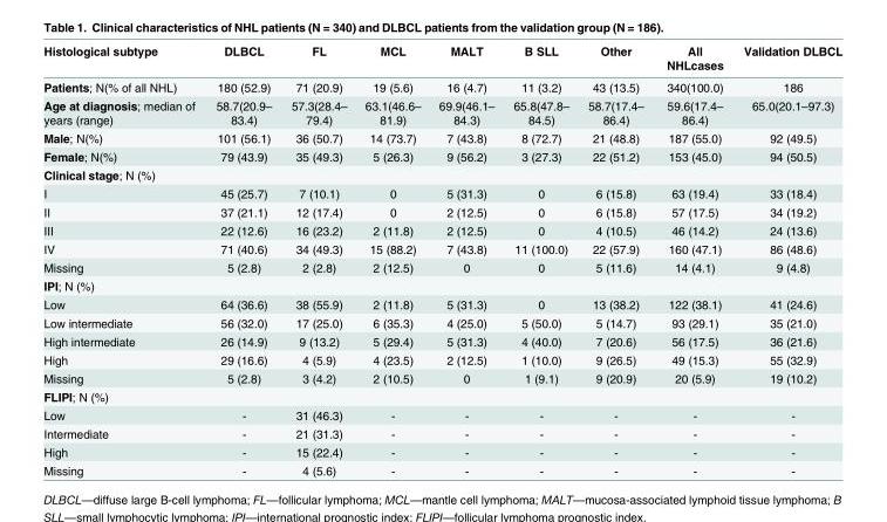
<table><thead><tr><td>Histological subtype</td><td>DLBCL</td><td>FL</td><td>MCL</td><td>MALT</td><td>B SLL</td><td>Other</td><td>All NHLcases</td><td>Validation DLBCL</td></tr></thead><tbody><tr><td>Patients; N(% of all NHL)</td><td>180 (52.9)</td><td>71 (20.9)</td><td>19 (5.6)</td><td>16 (4.7)</td><td>11 (3.2)</td><td>43 (13.5)</td><td>340(100.0)</td><td>186</td></tr><tr><td>Age at diagnosis; median of years (range)</td><td>58.7(20.9– 83.4)</td><td>57.3(28.4– 79.4)</td><td>63.1(46.6– 81.9)</td><td>69.9(46.1– 84.3)</td><td>65.8(47.8– 84.5)</td><td>58.7(17.4– 86.4)</td><td>59.6(17.4– 86.4)</td><td>65.0(20.1–97.3)</td></tr><tr><td>Male; N(%)</td><td>101 (56.1)</td><td>36 (50.7)</td><td>14 (73.7)</td><td>7 (43.8)</td><td>8 (72.7)</td><td>21 (48.8)</td><td>187 (55.0)</td><td>92 (49.5)</td></tr><tr><td>Female; N(%)</td><td>79 (43.9)</td><td>35 (49.3)</td><td>5 (26.3)</td><td>9 (56.2)</td><td>3 (27.3)</td><td>22 (51.2)</td><td>153 (45.0)</td><td>94 (50.5)</td></tr><tr><td colspan="9">Clinical stage; N (%)</td></tr><tr><td>I</td><td>45 (25.7)</td><td>7 (10.1)</td><td>0</td><td>5 (31.3)</td><td>0</td><td>6 (15.8)</td><td>63 (19.4)</td><td>33 (18.4)</td></tr><tr><td>II</td><td>37 (21.1)</td><td>12 (17.4)</td><td>0</td><td>2 (12.5)</td><td>0</td><td>6 (15.8)</td><td>57 (17.5)</td><td>34 (19.2)</td></tr><tr><td>III</td><td>22 (12.6)</td><td>16 (23.2)</td><td>2 (11.8)</td><td>2 (12.5)</td><td>0</td><td>4 (10.5)</td><td>46 (14.2)</td><td>24 (13.6)</td></tr><tr><td>IV</td><td>71 (40.6)</td><td>34 (49.3)</td><td>15 (88.2)</td><td>7 (43.8)</td><td>11 (100.0)</td><td>22 (57.9)</td><td>160 (47.1)</td><td>86 (48.6)</td></tr><tr><td>Missing</td><td>5 (2.8)</td><td>2 (2.8)</td><td>2 (12.5)</td><td>0</td><td>0</td><td>5 (11.6)</td><td>14 (4.1)</td><td>9 (4.8)</td></tr><tr><td colspan="9">IPI; N (%)</td></tr><tr><td>Low</td><td>64 (36.6)</td><td>38 (55.9)</td><td>2 (11.8)</td><td>5 (31.3)</td><td>0</td><td>13 (38.2)</td><td>122 (38.1)</td><td>41 (24.6)</td></tr><tr><td>Low intermediate</td><td>56 (32.0)</td><td>17 (25.0)</td><td>6 (35.3)</td><td>4 (25.0)</td><td>5 (50.0)</td><td>5 (14.7)</td><td>93 (29.1)</td><td>35 (21.0)</td></tr><tr><td>High intermediate</td><td>26 (14.9)</td><td>9 (13.2)</td><td>5 (29.4)</td><td>5 (31.3)</td><td>4 (40.0)</td><td>7 (20.6)</td><td>56 (17.5)</td><td>36 (21.6)</td></tr><tr><td>High</td><td>29 (16.6)</td><td>4 (5.9)</td><td>4 (23.5)</td><td>2 (12.5)</td><td>1 (10.0)</td><td>9 (26.5)</td><td>49 (15.3)</td><td>55 (32.9)</td></tr><tr><td>Missing</td><td>5 (2.8)</td><td>3 (4.2)</td><td>2 (10.5)</td><td>0</td><td>1 (9.1)</td><td>9 (20.9)</td><td>20 (5.9)</td><td>19 (10.2)</td></tr><tr><td colspan="9">FLIPI; N (%)</td></tr><tr><td>Low</td><td>-</td><td>31 (46.3)</td><td>-</td><td>-</td><td>-</td><td>-</td><td>-</td><td>-</td></tr><tr><td>Intermediate</td><td>-</td><td>21 (31.3)</td><td>-</td><td>-</td><td>-</td><td>-</td><td>-</td><td>-</td></tr><tr><td>High</td><td>-</td><td>15 (22.4)</td><td>-</td><td>-</td><td>-</td><td>-</td><td>-</td><td>-</td></tr><tr><td>Missing</td><td>-</td><td>4 (5.6)</td><td>-</td><td>-</td><td>-</td><td>-</td><td>-</td><td>-</td></tr></tbody></table>